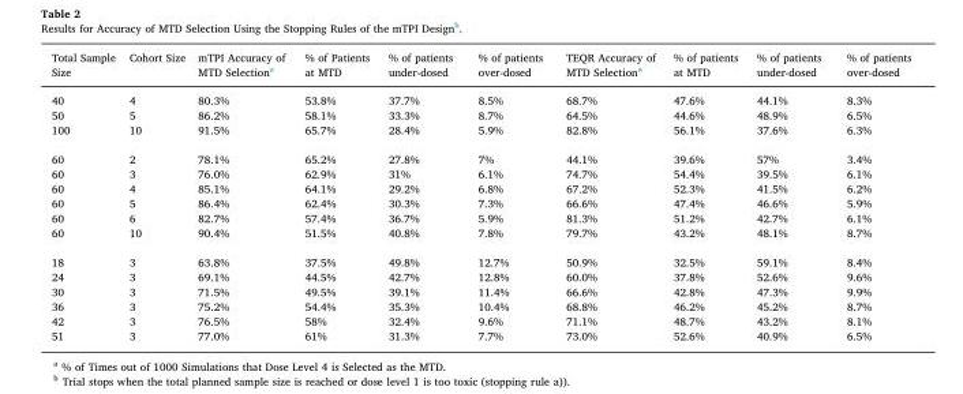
<table><thead><tr><td>Total Sample Size</td><td>Cohort Size</td><td>mTPI Accuracy of MTD Selection<sup>a</sup></td><td>% of Patients at MTD</td><td>% of patients under-dosed</td><td>% of patients over-dosed</td><td>TEQR Accuracy of MTD Selection<sup>a</sup></td><td>% of patients at MTD</td><td>% of patients under-dosed</td><td>% of patients over-dosed</td></tr></thead><tbody><tr><td>40</td><td>4</td><td>80.3%</td><td>53.8%</td><td>37.7%</td><td>8.5%</td><td>68.7%</td><td>47.6%</td><td>44.1%</td><td>8.3%</td></tr><tr><td>50</td><td>5</td><td>86.2%</td><td>58.1%</td><td>33.3%</td><td>8.7%</td><td>64.5%</td><td>44.6%</td><td>48.9%</td><td>6.5%</td></tr><tr><td>100</td><td>10</td><td>91.5%</td><td>65.7%</td><td>28.4%</td><td>5.9%</td><td>82.8%</td><td>56.1%</td><td>37.6%</td><td>6.3%</td></tr><tr><td>60</td><td>2</td><td>78.1%</td><td>65.2%</td><td>27.8%</td><td>7%</td><td>44.1%</td><td>39.6%</td><td>57%</td><td>3.4%</td></tr><tr><td>60</td><td>3</td><td>76.0%</td><td>62.9%</td><td>31%</td><td>6.1%</td><td>74.7%</td><td>54.4%</td><td>39.5%</td><td>6.1%</td></tr><tr><td>60</td><td>4</td><td>85.1%</td><td>64.1%</td><td>29.2%</td><td>6.8%</td><td>67.2%</td><td>52.3%</td><td>41.5%</td><td>6.2%</td></tr><tr><td>60</td><td>5</td><td>86.4%</td><td>62.4%</td><td>30.3%</td><td>7.3%</td><td>66.6%</td><td>47.4%</td><td>46.6%</td><td>5.9%</td></tr><tr><td>60</td><td>6</td><td>82.7%</td><td>57.4%</td><td>36.7%</td><td>5.9%</td><td>81.3%</td><td>51.2%</td><td>42.7%</td><td>6.1%</td></tr><tr><td>60</td><td>10</td><td>90.4%</td><td>51.5%</td><td>40.8%</td><td>7.8%</td><td>79.7%</td><td>43.2%</td><td>48.1%</td><td>8.7%</td></tr><tr><td>18</td><td>3</td><td>63.8%</td><td>37.5%</td><td>49.8%</td><td>12.7%</td><td>50.9%</td><td>32.5%</td><td>59.1%</td><td>8.4%</td></tr><tr><td>24</td><td>3</td><td>69.1%</td><td>44.5%</td><td>42.7%</td><td>12.8%</td><td>60.0%</td><td>37.8%</td><td>52.6%</td><td>9.6%</td></tr><tr><td>30</td><td>3</td><td>71.5%</td><td>49.5%</td><td>39.1%</td><td>11.4%</td><td>66.6%</td><td>42.8%</td><td>47.3%</td><td>9.9%</td></tr><tr><td>36</td><td>3</td><td>75.2%</td><td>54.4%</td><td>35.3%</td><td>10.4%</td><td>68.8%</td><td>46.2%</td><td>45.2%</td><td>8.7%</td></tr><tr><td>42</td><td>3</td><td>76.5%</td><td>58%</td><td>32.4%</td><td>9.6%</td><td>71.1%</td><td>48.7%</td><td>43.2%</td><td>8.1%</td></tr><tr><td>51</td><td>3</td><td>77.0%</td><td>61%</td><td>31.3%</td><td>7.7%</td><td>73.0%</td><td>52.6%</td><td>40.9%</td><td>6.5%</td></tr></tbody></table>